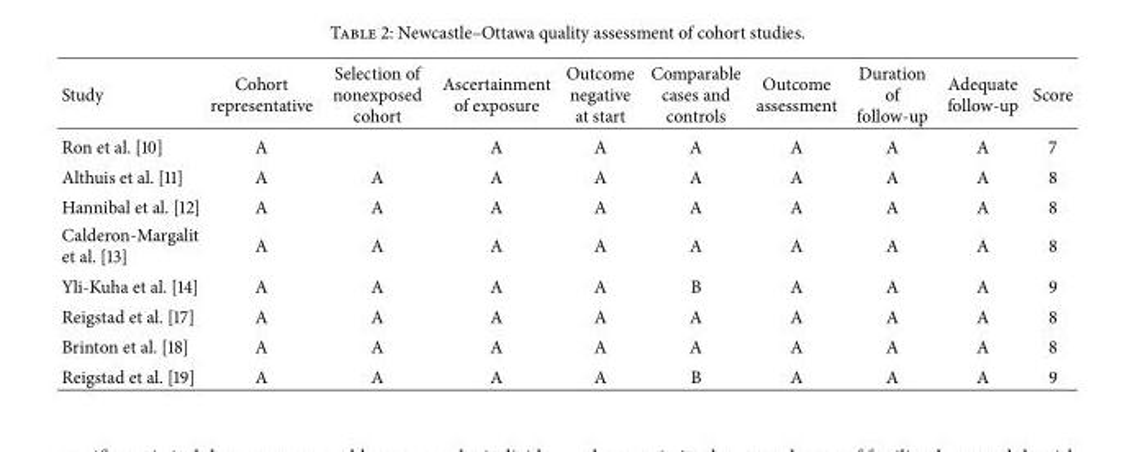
<table><thead><tr><td>Study</td><td>Cohort representative</td><td>Selection of nonexposed cohort</td><td>Ascertainment of exposure</td><td>Outcome negative at start</td><td>Comparable cases and controls</td><td>Outcome assessment</td><td>Duration of follow-up</td><td>Adequate follow-up</td><td>Score</td></tr></thead><tbody><tr><td>Ron et al. [10]</td><td>A</td><td></td><td>A</td><td>A</td><td>A</td><td>A</td><td>A</td><td>A</td><td>7</td></tr><tr><td>Althuis et al. [11]</td><td>A</td><td>A</td><td>A</td><td>A</td><td>A</td><td>A</td><td>A</td><td>A</td><td>8</td></tr><tr><td>Hannibal et al. [12]</td><td>A</td><td>A</td><td>A</td><td>A</td><td>A</td><td>A</td><td>A</td><td>A</td><td>8</td></tr><tr><td>Calderon-Margalit et al. [13]</td><td>A</td><td>A</td><td>A</td><td>A</td><td>A</td><td>A</td><td>A</td><td>A</td><td>8</td></tr><tr><td>Yli-Kuha et al. [14]</td><td>A</td><td>A</td><td>A</td><td>A</td><td>B</td><td>A</td><td>A</td><td>A</td><td>9</td></tr><tr><td>Reigstad et al. [17]</td><td>A</td><td>A</td><td>A</td><td>A</td><td>A</td><td>A</td><td>A</td><td>A</td><td>8</td></tr><tr><td>Brinton et al. [18]</td><td>A</td><td>A</td><td>A</td><td>A</td><td>A</td><td>A</td><td>A</td><td>A</td><td>8</td></tr><tr><td>Reigstad et al. [19]</td><td>A</td><td>A</td><td>A</td><td>A</td><td>B</td><td>A</td><td>A</td><td>A</td><td>9</td></tr></tbody></table>